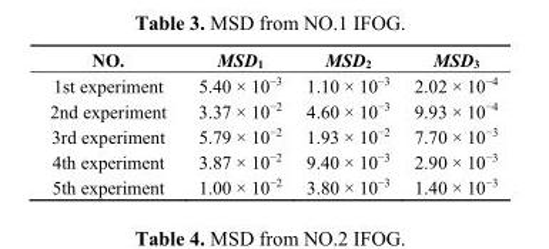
<table><thead><tr><td>NO.</td><td>MSD<sub>1</sub></td><td>MSD<sub>2</sub></td><td>MSD<sub>3</sub></td></tr></thead><tbody><tr><td>1st experiment</td><td>5.40 × 10<sup>−3</sup></td><td>1.10 × 10<sup>−3</sup></td><td>2.02 × 10<sup>−4</sup></td></tr><tr><td>2nd experiment</td><td>3.37 × 10<sup>−2</sup></td><td>4.60 × 10<sup>−3</sup></td><td>9.93 × 10<sup>−4</sup></td></tr><tr><td>3rd experiment</td><td>5.79 × 10<sup>−2</sup></td><td>1.93 × 10<sup>−2</sup></td><td>7.70 × 10<sup>−3</sup></td></tr><tr><td>4th experiment</td><td>3.87 × 10<sup>−2</sup></td><td>9.40 × 10<sup>−3</sup></td><td>2.90 × 10<sup>−3</sup></td></tr><tr><td>5th experiment</td><td>1.00 × 10<sup>−2</sup></td><td>3.80 × 10<sup>−3</sup></td><td>1.40 × 10<sup>−3</sup></td></tr></tbody></table>